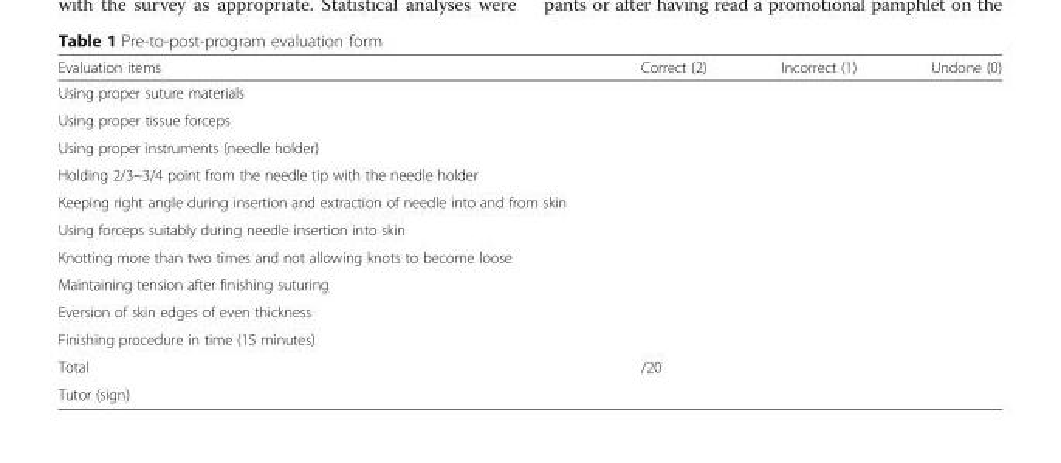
<table><thead><tr><td>Evaluation items</td><td>Correct (2)</td><td>Incorrect (1)</td><td>Undone (0)</td></tr></thead><tbody><tr><td colspan="4">Using proper suture materials</td></tr><tr><td colspan="4">Using proper tissue forceps</td></tr><tr><td colspan="4">Using proper instruments (needle holder)</td></tr><tr><td colspan="4">Holding 2/3~3/4 point from the needle tip with the needle holder</td></tr><tr><td colspan="4">Keeping right angle during insertion and extraction of needle into and from skin</td></tr><tr><td colspan="4">Using forceps suitably during needle insertion into skin</td></tr><tr><td colspan="4">Knotting more than two times and not allowing knots to become loose</td></tr><tr><td colspan="4">Maintaining tension after finishing suturing</td></tr><tr><td colspan="4">Eversion of skin edges of even thickness</td></tr><tr><td colspan="4">Finishing procedure in time (15 minutes)</td></tr><tr><td>Total</td><td colspan="3">/20</td></tr><tr><td>Tutor (sign)</td><td></td><td></td><td></td></tr></tbody></table>